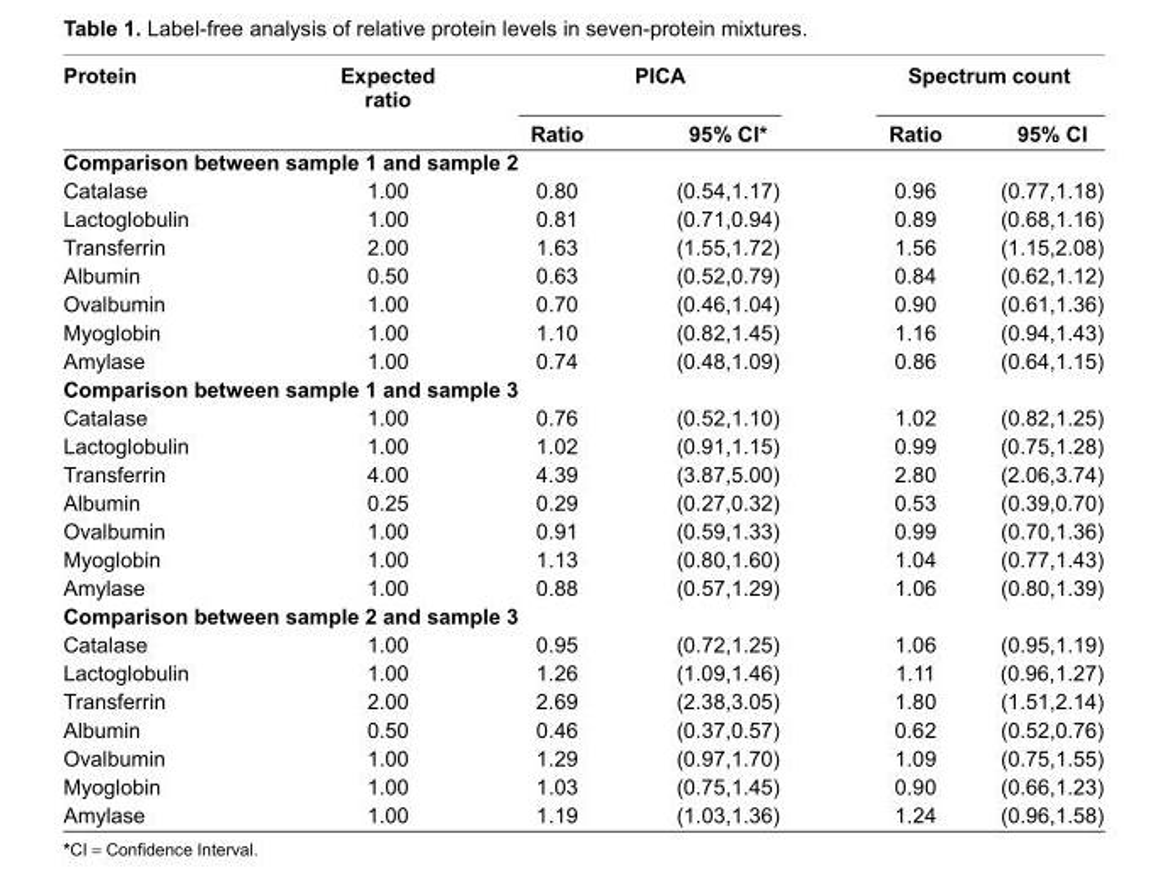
<table><thead><tr><td rowspan="2">Protein</td><td rowspan="2">Expected ratio</td><td colspan="2">PICA</td><td colspan="2">Spectrum count</td></tr><tr><td>Ratio</td><td>95% CI*</td><td>Ratio</td><td>95% CI</td></tr></thead><tbody><tr><td colspan="6">Comparison between sample 1 and sample 2</td></tr><tr><td>Catalase</td><td>1.00</td><td>0.80</td><td>(0.54,1.17)</td><td>0.96</td><td>(0.77,1.18)</td></tr><tr><td>Lactoglobulin</td><td>1.00</td><td>0.81</td><td>(0.71,0.94)</td><td>0.89</td><td>(0.68,1.16)</td></tr><tr><td>Transferrin</td><td>2.00</td><td>1.63</td><td>(1.55,1.72)</td><td>1.56</td><td>(1.15,2.08)</td></tr><tr><td>Albumin</td><td>0.50</td><td>0.63</td><td>(0.52,0.79)</td><td>0.84</td><td>(0.62,1.12)</td></tr><tr><td>Ovalbumin</td><td>1.00</td><td>0.70</td><td>(0.46,1.04)</td><td>0.90</td><td>(0.61,1.36)</td></tr><tr><td>Myoglobin</td><td>1.00</td><td>1.10</td><td>(0.82,1.45)</td><td>1.16</td><td>(0.94,1.43)</td></tr><tr><td>Amylase</td><td>1.00</td><td>0.74</td><td>(0.48,1.09)</td><td>0.86</td><td>(0.64,1.15)</td></tr><tr><td colspan="6">Comparison between sample 1 and sample 3</td></tr><tr><td>Catalase</td><td>1.00</td><td>0.76</td><td>(0.52,1.10)</td><td>1.02</td><td>(0.82,1.25)</td></tr><tr><td>Lactoglobulin</td><td>1.00</td><td>1.02</td><td>(0.91,1.15)</td><td>0.99</td><td>(0.75,1.28)</td></tr><tr><td>Transferrin</td><td>4.00</td><td>4.39</td><td>(3.87,5.00)</td><td>2.80</td><td>(2.06,3.74)</td></tr><tr><td>Albumin</td><td>0.25</td><td>0.29</td><td>(0.27,0.32)</td><td>0.53</td><td>(0.39,0.70)</td></tr><tr><td>Ovalbumin</td><td>1.00</td><td>0.91</td><td>(0.59,1.33)</td><td>0.99</td><td>(0.70,1.36)</td></tr><tr><td>Myoglobin</td><td>1.00</td><td>1.13</td><td>(0.80,1.60)</td><td>1.04</td><td>(0.77,1.43)</td></tr><tr><td>Amylase</td><td>1.00</td><td>0.88</td><td>(0.57,1.29)</td><td>1.06</td><td>(0.80,1.39)</td></tr><tr><td colspan="6">Comparison between sample 2 and sample 3</td></tr><tr><td>Catalase</td><td>1.00</td><td>0.95</td><td>(0.72,1.25)</td><td>1.06</td><td>(0.95,1.19)</td></tr><tr><td>Lactoglobulin</td><td>1.00</td><td>1.26</td><td>(1.09,1.46)</td><td>1.11</td><td>(0.96,1.27)</td></tr><tr><td>Transferrin</td><td>2.00</td><td>2.69</td><td>(2.38,3.05)</td><td>1.80</td><td>(1.51,2.14)</td></tr><tr><td>Albumin</td><td>0.50</td><td>0.46</td><td>(0.37,0.57)</td><td>0.62</td><td>(0.52,0.76)</td></tr><tr><td>Ovalbumin</td><td>1.00</td><td>1.29</td><td>(0.97,1.70)</td><td>1.09</td><td>(0.75,1.55)</td></tr><tr><td>Myoglobin</td><td>1.00</td><td>1.03</td><td>(0.75,1.45)</td><td>0.90</td><td>(0.66,1.23)</td></tr><tr><td>Amylase</td><td>1.00</td><td>1.19</td><td>(1.03,1.36)</td><td>1.24</td><td>(0.96,1.58)</td></tr></tbody></table>